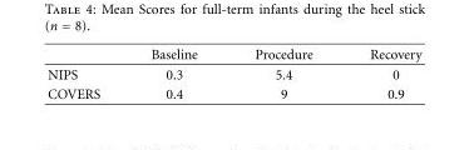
<table><thead><tr><td></td><td>Baseline</td><td>Procedure</td><td>Recovery</td></tr></thead><tbody><tr><td>NIPS</td><td>0.3</td><td>5.4</td><td>0</td></tr><tr><td>COVERS</td><td>0.4</td><td>9</td><td>0.9</td></tr></tbody></table>